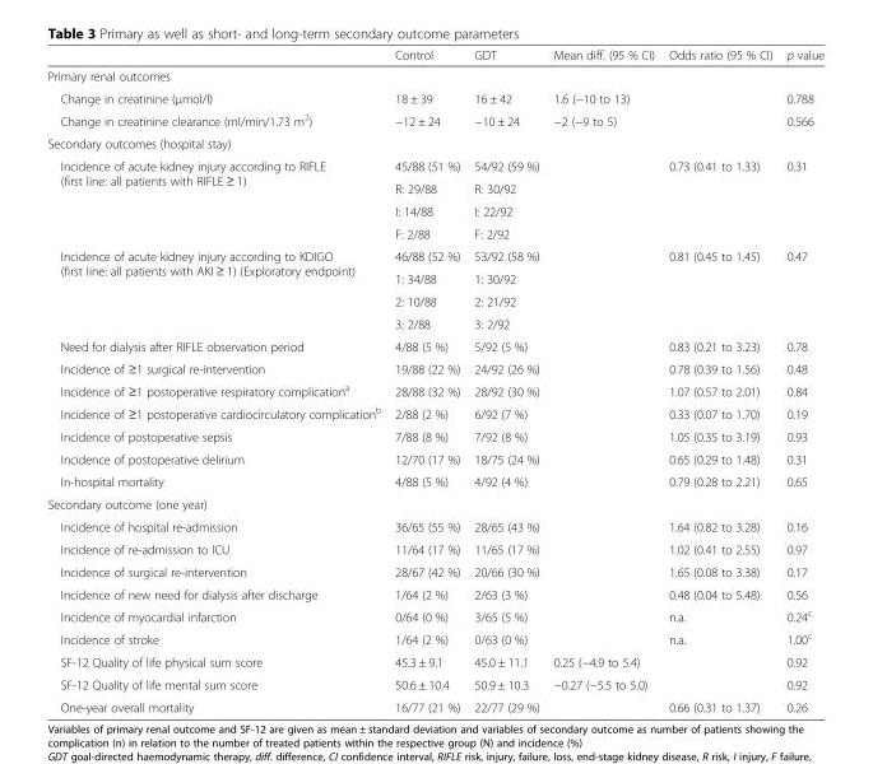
<table><thead><tr><td></td><td>Control</td><td>GDT</td><td>Mean diff. (95 % CI)</td><td>Odds ratio (95 % CI)</td><td>p value</td></tr></thead><tbody><tr><td colspan="6">Primary renal outcomes</td></tr><tr><td>Change in creatinine (μmol/l)</td><td>18 ± 39</td><td>16 ± 42</td><td>1.6 (−10 to 13)</td><td></td><td>0.788</td></tr><tr><td>Change in creatinine clearance (ml/min/1.73 m<sup>2</sup>)</td><td>−12 ± 24</td><td>−10 ± 24</td><td>−2 (−9 to 5)</td><td></td><td>0.566</td></tr><tr><td colspan="6">Secondary outcomes (hospital stay)</td></tr><tr><td rowspan="4">Incidence of acute kidney injury according to RIFLE (first line: all patients with RIFLE ≥ 1)</td><td>45/88 (51 %)</td><td>54/92 (59 %)</td><td></td><td>0.73 (0.41 to 1.33)</td><td>0.31</td></tr><tr><td>R: 29/88</td><td>R: 30/92</td><td></td><td></td><td></td></tr><tr><td>I: 14/88</td><td>I: 22/92</td><td></td><td></td><td></td></tr><tr><td>F: 2/88</td><td>F: 2/92</td><td></td><td></td><td></td></tr><tr><td rowspan="4">Incidence of acute kidney injury according to KDIGO (first line: all patients with AKI ≥ 1) (Exploratory endpoint)</td><td>46/88 (52 %)</td><td>53/92 (58 %)</td><td></td><td>0.81 (0.45 to 1.45)</td><td>0.47</td></tr><tr><td>1: 34/88</td><td>1: 30/92</td><td></td><td></td><td></td></tr><tr><td>2: 10/88</td><td>2: 21/92</td><td></td><td></td><td></td></tr><tr><td>3: 2/88</td><td>3: 2/92</td><td></td><td></td><td></td></tr><tr><td>Need for dialysis after RIFLE observation period</td><td>4/88 (5 %)</td><td>5/92 (5 %)</td><td></td><td>0.83 (0.21 to 3.23)</td><td>0.78</td></tr><tr><td>Incidence of ≥1 surgical re-intervention</td><td>19/88 (22 %)</td><td>24/92 (26 %)</td><td></td><td>0.78 (0.39 to 1.56)</td><td>0.48</td></tr><tr><td>Incidence of ≥1 postoperative respiratory complication<sup>a</sup></td><td>28/88 (32 %)</td><td>28/92 (30 %)</td><td></td><td>1.07 (0.57 to 2.01)</td><td>0.84</td></tr><tr><td>Incidence of ≥1 postoperative cardiocirculatory complication<sup>b</sup></td><td>2/88 (2 %)</td><td>6/92 (7 %)</td><td></td><td>0.33 (0.07 to 1.70)</td><td>0.19</td></tr><tr><td>Incidence of postoperative sepsis</td><td>7/88 (8 %)</td><td>7/92 (8 %)</td><td></td><td>1.05 (0.35 to 3.19)</td><td>0.93</td></tr><tr><td>Incidence of postoperative delirium</td><td>12/70 (17 %)</td><td>18/75 (24 %)</td><td></td><td>0.65 (0.29 to 1.48)</td><td>0.31</td></tr><tr><td>In-hospital mortality</td><td>4/88 (5 %)</td><td>4/92 (4 %)</td><td></td><td>0.79 (0.28 to 2.21)</td><td>0.65</td></tr><tr><td colspan="6">Secondary outcome (one year)</td></tr><tr><td>Incidence of hospital re-admission</td><td>36/65 (55 %)</td><td>28/65 (43 %)</td><td></td><td>1.64 (0.82 to 3.28)</td><td>0.16</td></tr><tr><td>Incidence of re-admission to ICU</td><td>11/64 (17 %)</td><td>11/65 (17 %)</td><td></td><td>1.02 (0.41 to 2.55)</td><td>0.97</td></tr><tr><td>Incidence of surgical re-intervention</td><td>28/67 (42 %)</td><td>20/66 (30 %)</td><td></td><td>1.65 (0.08 to 3.38)</td><td>0.17</td></tr><tr><td>Incidence of new need for dialysis after discharge</td><td>1/64 (2 %)</td><td>2/63 (3 %)</td><td></td><td>0.48 (0.04 to 5.48)</td><td>0.56</td></tr><tr><td>Incidence of myocardial infarction</td><td>0/64 (0 %)</td><td>3/65 (5 %)</td><td></td><td>n.a.</td><td>0.24<sup>c</sup></td></tr><tr><td>Incidence of stroke</td><td>1/64 (2 %)</td><td>0/63 (0 %)</td><td></td><td>n.a.</td><td>1.00<sup>c</sup></td></tr><tr><td>SF-12 Quality of life physical sum score</td><td>45.3 ± 9.1</td><td>45.0 ± 11.1</td><td>0.25 (−4.9 to 5.4)</td><td></td><td>0.92</td></tr><tr><td>SF-12 Quality of life mental sum score</td><td>50.6 ± 10.4</td><td>50.9 ± 10.3</td><td>−0.27 (−5.5 to 5.0)</td><td></td><td>0.92</td></tr><tr><td>One-year overall mortality</td><td>16/77 (21 %)</td><td>22/77 (29 %)</td><td></td><td>0.66 (0.31 to 1.37)</td><td>0.26</td></tr></tbody></table>